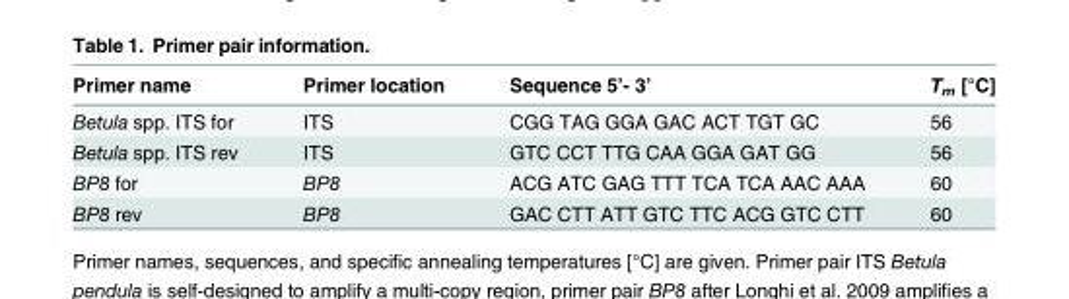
<table><thead><tr><td>Primer name</td><td>Primer location</td><td>Sequence 5’- 3’</td><td>T<sub>m</sub> [°C]</td></tr></thead><tbody><tr><td>Betula spp. ITS for</td><td>ITS</td><td>CGG TAG GGA GAC ACT TGT GC</td><td>56</td></tr><tr><td>Betula spp. ITS rev</td><td>ITS</td><td>GTC CCT TTG CAA GGA GAT GG</td><td>56</td></tr><tr><td>BP8 for</td><td>BP8</td><td>ACG ATC GAG TTT TCA TCA AAC AAA</td><td>60</td></tr><tr><td>BP8 rev</td><td>BP8</td><td>GAC CTT ATT GTC TTC ACG GTC CTT</td><td>60</td></tr></tbody></table>